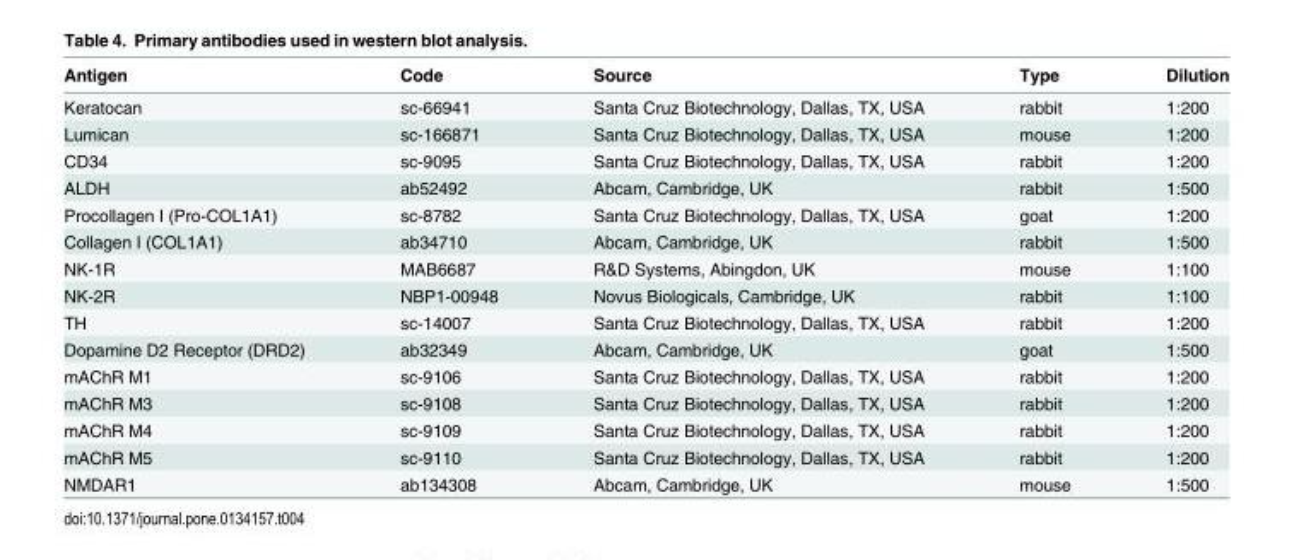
<table><thead><tr><td>Antigen</td><td>Code</td><td>Source</td><td>Type</td><td>Dilution</td></tr></thead><tbody><tr><td>Keratocan</td><td>sc-66941</td><td>Santa Cruz Biotechnology, Dallas, TX, USA</td><td>rabbit</td><td>1:200</td></tr><tr><td>Lumican</td><td>sc-166871</td><td>Santa Cruz Biotechnology, Dallas, TX, USA</td><td>mouse</td><td>1:200</td></tr><tr><td>CD34</td><td>sc-9095</td><td>Santa Cruz Biotechnology, Dallas, TX, USA</td><td>rabbit</td><td>1:200</td></tr><tr><td>ALDH</td><td>ab52492</td><td>Abcam, Cambridge, UK</td><td>rabbit</td><td>1:500</td></tr><tr><td>Procollagen I (Pro-COL1A1)</td><td>sc-8782</td><td>Santa Cruz Biotechnology, Dallas, TX, USA</td><td>goat</td><td>1:200</td></tr><tr><td>Collagen I (COL1A1)</td><td>ab34710</td><td>Abcam, Cambridge, UK</td><td>rabbit</td><td>1:500</td></tr><tr><td>NK-1R</td><td>MAB6687</td><td>R&amp;D Systems, Abingdon, UK</td><td>mouse</td><td>1:100</td></tr><tr><td>NK-2R</td><td>NBP1-00948</td><td>Novus Biologicals, Cambridge, UK</td><td>rabbit</td><td>1:100</td></tr><tr><td>TH</td><td>sc-14007</td><td>Santa Cruz Biotechnology, Dallas, TX, USA</td><td>rabbit</td><td>1:200</td></tr><tr><td>Dopamine D2 Receptor (DRD2)</td><td>ab32349</td><td>Abcam, Cambridge, UK</td><td>goat</td><td>1:500</td></tr><tr><td>mAChR M1</td><td>sc-9106</td><td>Santa Cruz Biotechnology, Dallas, TX, USA</td><td>rabbit</td><td>1:200</td></tr><tr><td>mAChR M3</td><td>sc-9108</td><td>Santa Cruz Biotechnology, Dallas, TX, USA</td><td>rabbit</td><td>1:200</td></tr><tr><td>mAChR M4</td><td>sc-9109</td><td>Santa Cruz Biotechnology, Dallas, TX, USA</td><td>rabbit</td><td>1:200</td></tr><tr><td>mAChR M5</td><td>sc-9110</td><td>Santa Cruz Biotechnology, Dallas, TX, USA</td><td>rabbit</td><td>1:200</td></tr><tr><td>NMDAR1</td><td>ab134308</td><td>Abcam, Cambridge, UK</td><td>mouse</td><td>1:500</td></tr></tbody></table>